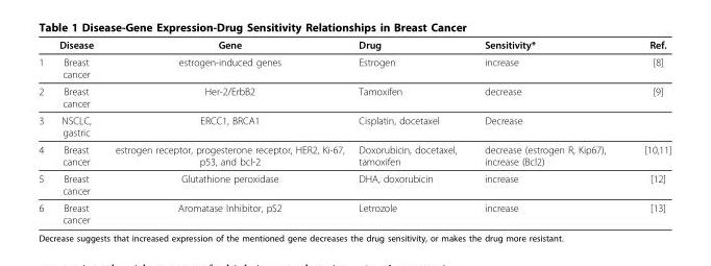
<table><thead><tr><td></td><td>Disease</td><td>Gene</td><td>Drug</td><td>Sensitivity*</td><td>Ref.</td></tr></thead><tbody><tr><td>1</td><td>Breast cancer</td><td>estrogen-induced genes</td><td>Estrogen</td><td>increase</td><td>[8]</td></tr><tr><td>2</td><td>Breast cancer</td><td>Her-2/ErbB2</td><td>Tamoxifen</td><td>decrease</td><td>[9]</td></tr><tr><td>3</td><td>NSCLC, gastric</td><td>ERCC1, BRCA1</td><td>Cisplatin, docetaxel</td><td>Decrease</td><td></td></tr><tr><td>4</td><td>Breast cancer</td><td>estrogen receptor, progesterone receptor, HER2, Ki-67, p53, and bcl-2</td><td>Doxorubicin, docetaxel, tamoxifen</td><td>decrease (estrogen R, Kip67), increase (Bcl2)</td><td>[10,11]</td></tr><tr><td>5</td><td>Breast cancer</td><td>Glutathione peroxidase</td><td>DHA, doxorubicin</td><td>increase</td><td>[12]</td></tr><tr><td>6</td><td>Breast cancer</td><td>Aromatase Inhibitor, pS2</td><td>Letrozole</td><td>increase</td><td>[13]</td></tr></tbody></table>